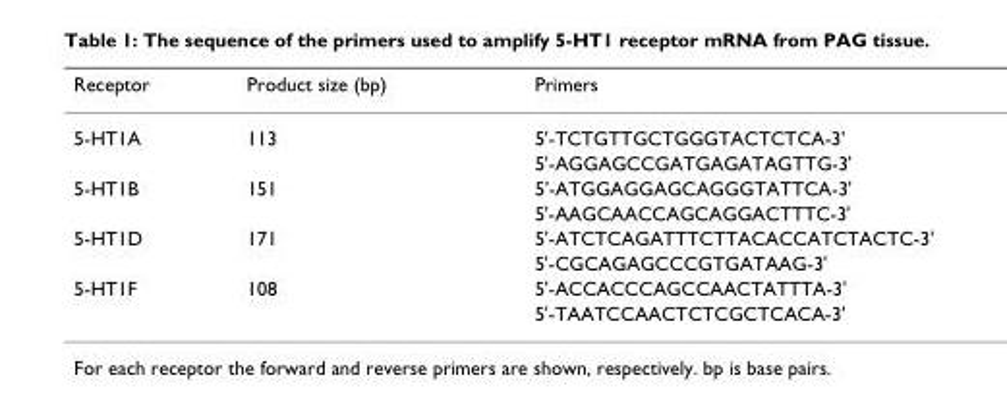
<table><thead><tr><td>Receptor</td><td>Product size (bp)</td><td>Primers</td></tr></thead><tbody><tr><td rowspan="2">5-HT1A</td><td>113</td><td>5&#x27;-TCTGTTGCTGGGTACTCTCA-3&#x27;</td></tr><tr><td></td><td>5&#x27;-AGGAGCCGATGAGATAGTTG-3&#x27;</td></tr><tr><td rowspan="2">5-HT1B</td><td>151</td><td>5&#x27;-ATGGAGGAGCAGGGTATTCA-3&#x27;</td></tr><tr><td></td><td>5&#x27;-AAGCAACCAGCAGGACTTTC-3&#x27;</td></tr><tr><td rowspan="2">5-HT1D</td><td>171</td><td>5&#x27;-ATCTCAGATTTCTTACACCATCTACTC-3&#x27;</td></tr><tr><td></td><td>5&#x27;-CGCAGAGCCCGTGATAAG-3&#x27;</td></tr><tr><td rowspan="2">5-HT1F</td><td>108</td><td>5&#x27;-ACCACCCAGCCAACTATTTA-3&#x27;</td></tr><tr><td></td><td>5&#x27;-TAATCCAACTCTCGCTCACA-3&#x27;</td></tr></tbody></table>